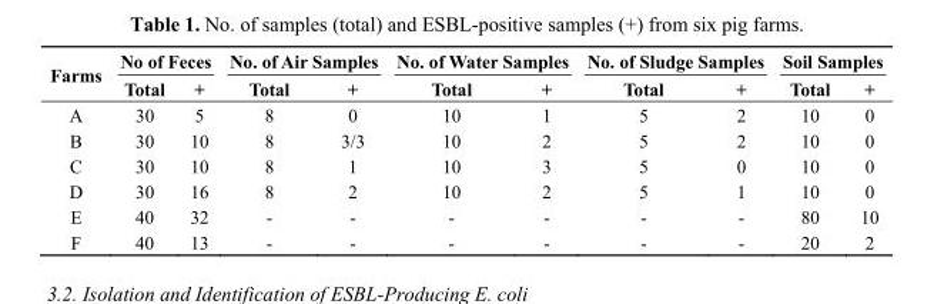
<table><thead><tr><td rowspan="2">Farms</td><td colspan="2">No of Feces</td><td colspan="2">No. of Air Samples</td><td colspan="2">No. of Water Samples</td><td colspan="2">No. of Sludge Samples</td><td colspan="2">Soil Samples</td></tr><tr><td>Total</td><td>+</td><td>Total</td><td>+</td><td>Total</td><td>+</td><td>Total</td><td>+</td><td>Total</td><td>+</td></tr></thead><tbody><tr><td>A</td><td>30</td><td>5</td><td>8</td><td>0</td><td>10</td><td>1</td><td>5</td><td>2</td><td>10</td><td>0</td></tr><tr><td>B</td><td>30</td><td>10</td><td>8</td><td>3/3</td><td>10</td><td>2</td><td>5</td><td>2</td><td>10</td><td>0</td></tr><tr><td>C</td><td>30</td><td>10</td><td>8</td><td>1</td><td>10</td><td>3</td><td>5</td><td>0</td><td>10</td><td>0</td></tr><tr><td>D</td><td>30</td><td>16</td><td>8</td><td>2</td><td>10</td><td>2</td><td>5</td><td>1</td><td>10</td><td>0</td></tr><tr><td>E</td><td>40</td><td>32</td><td>-</td><td>-</td><td>-</td><td>-</td><td>-</td><td>-</td><td>80</td><td>10</td></tr><tr><td>F</td><td>40</td><td>13</td><td>-</td><td>-</td><td>-</td><td>-</td><td>-</td><td>-</td><td>20</td><td>2</td></tr></tbody></table>